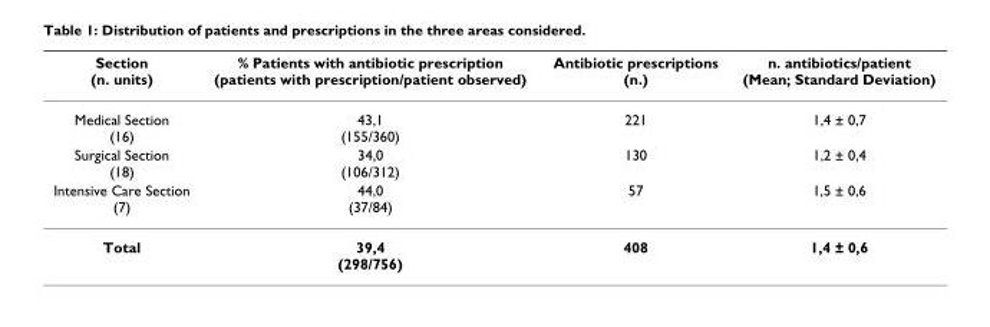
<table><thead><tr><td>Section (n. units)</td><td>% Patients with antibiotic prescription (patients with prescription/patient observed)</td><td>Antibiotic prescriptions (n.)</td><td>n. antibiotics/patient (Mean; Standard Deviation)</td></tr></thead><tbody><tr><td>Medical Section (16)</td><td>43,1 (155/360)</td><td>221</td><td>1,4 ± 0,7</td></tr><tr><td>Surgical Section (18)</td><td>34,0 (106/312)</td><td>130</td><td>1,2 ± 0,4</td></tr><tr><td>Intensive Care Section (7)</td><td>44,0 (37/84)</td><td>57</td><td>1,5 ± 0,6</td></tr><tr><td>Total</td><td>39,4 (298/756)</td><td>408</td><td>1,4 ± 0,6</td></tr></tbody></table>